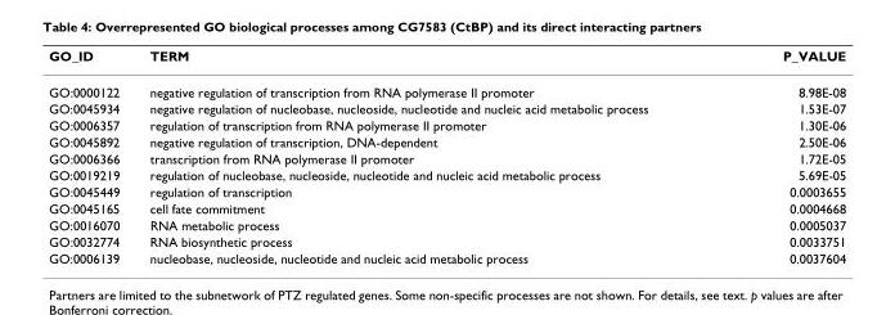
<table><thead><tr><td>GO_ID</td><td>TERM</td><td>P_VALUE</td></tr></thead><tbody><tr><td>GO:0000122</td><td>negative regulation of transcription from RNA polymerase II promoter</td><td>8.98E-08</td></tr><tr><td>GO:0045934</td><td>negative regulation of nucleobase, nucleoside, nucleotide and nucleic acid metabolic process</td><td>1.53E-07</td></tr><tr><td>GO:0006357</td><td>regulation of transcription from RNA polymerase II promoter</td><td>1.30E-06</td></tr><tr><td>GO:0045892</td><td>negative regulation of transcription, DNA-dependent</td><td>2.50E-06</td></tr><tr><td>GO:0006366</td><td>transcription from RNA polymerase II promoter</td><td>1.72E-05</td></tr><tr><td>GO:0019219</td><td>regulation of nucleobase, nucleoside, nucleotide and nucleic acid metabolic process</td><td>5.69E-05</td></tr><tr><td>GO:0045449</td><td>regulation of transcription</td><td>0.0003655</td></tr><tr><td>GO:0045165</td><td>cell fate commitment</td><td>0.0004668</td></tr><tr><td>GO:0016070</td><td>RNA metabolic process</td><td>0.0005037</td></tr><tr><td>GO:0032774</td><td>RNA biosynthetic process</td><td>0.0033751</td></tr><tr><td>GO:0006139</td><td>nucleobase, nucleoside, nucleotide and nucleic acid metabolic process</td><td>0.0037604</td></tr></tbody></table>